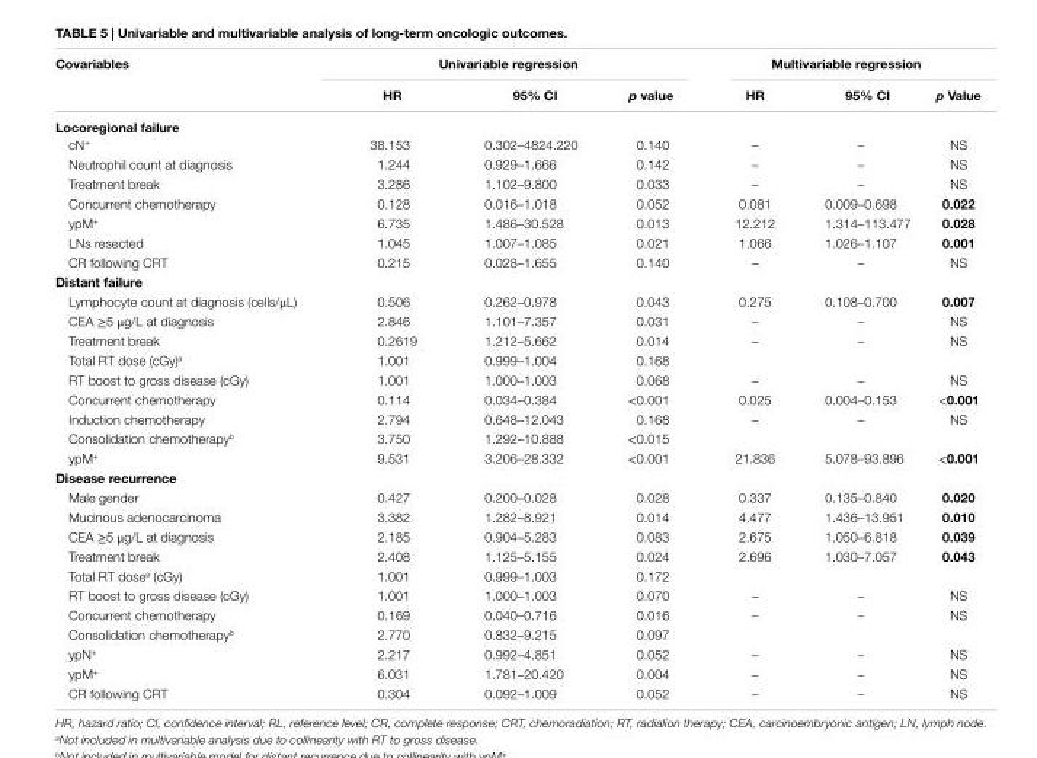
<table><thead><tr><td rowspan="2">covariables</td><td colspan="3">Univariable regression</td><td colspan="3">Multivariable regression</td></tr><tr><td>hr</td><td>95% ci</td><td>p value</td><td>hr</td><td>95% ci</td><td>p Value</td></tr></thead><tbody><tr><td colspan="7">locoregional failure</td></tr><tr><td>cN<sup>+</sup></td><td>38.153</td><td>0.302–4824.220</td><td>0.140</td><td>–</td><td>–</td><td>NS</td></tr><tr><td>Neutrophil count at diagnosis</td><td>1.244</td><td>0.929–1.666</td><td>0.142</td><td>–</td><td>–</td><td>NS</td></tr><tr><td>Treatment break</td><td>3.286</td><td>1.102–9.800</td><td>0.033</td><td>–</td><td>–</td><td>NS</td></tr><tr><td>Concurrent chemotherapy</td><td>0.128</td><td>0.016–1.018</td><td>0.052</td><td>0.081</td><td>0.009–0.698</td><td>0.022</td></tr><tr><td>ypM<sup>+</sup></td><td>6.735</td><td>1.486–30.528</td><td>0.013</td><td>12.212</td><td>1.314–113.477</td><td>0.028</td></tr><tr><td>LNs resected</td><td>1.045</td><td>1.007–1.085</td><td>0.021</td><td>1.066</td><td>1.026–1.107</td><td>0.001</td></tr><tr><td>CR following CRT</td><td>0.215</td><td>0.028–1.655</td><td>0.140</td><td>–</td><td>–</td><td>NS</td></tr><tr><td colspan="7">Distant failure</td></tr><tr><td>Lymphocyte count at diagnosis (cells/μL)</td><td>0.506</td><td>0.262–0.978</td><td>0.043</td><td>0.275</td><td>0.108–0.700</td><td>0.007</td></tr><tr><td>CEA ≥5 μg/L at diagnosis</td><td>2.846</td><td>1.101–7.357</td><td>0.031</td><td>–</td><td>–</td><td>NS</td></tr><tr><td>Treatment break</td><td>0.2619</td><td>1.212–5.662</td><td>0.014</td><td>–</td><td>–</td><td>NS</td></tr><tr><td>Total RT dose (cGy)<sup>a</sup></td><td>1.001</td><td>0.999–1.004</td><td>0.168</td><td></td><td></td><td></td></tr><tr><td>RT boost to gross disease (cGy)</td><td>1.001</td><td>1.000–1.003</td><td>0.068</td><td>–</td><td>–</td><td>NS</td></tr><tr><td>Concurrent chemotherapy</td><td>0.114</td><td>0.034–0.384</td><td>&lt;0.001</td><td>0.025</td><td>0.004–0.153</td><td>&lt;0.001</td></tr><tr><td>Induction chemotherapy</td><td>2.794</td><td>0.648–12.043</td><td>0.168</td><td>–</td><td>–</td><td>NS</td></tr><tr><td>Consolidation chemotherapy<sup>b</sup></td><td>3.750</td><td>1.292–10.888</td><td>&lt;0.015</td><td></td><td></td><td></td></tr><tr><td>ypM<sup>+</sup></td><td>9.531</td><td>3.206–28.332</td><td>&lt;0.001</td><td>21.836</td><td>5.078–93.896</td><td>&lt;0.001</td></tr><tr><td colspan="7">Disease recurrence</td></tr><tr><td>Male gender</td><td>0.427</td><td>0.200–0.028</td><td>0.028</td><td>0.337</td><td>0.135–0.840</td><td>0.020</td></tr><tr><td>Mucinous adenocarcinoma</td><td>3.382</td><td>1.282–8.921</td><td>0.014</td><td>4.477</td><td>1.436–13.951</td><td>0.010</td></tr><tr><td>CEA ≥5 μg/L at diagnosis</td><td>2.185</td><td>0.904–5.283</td><td>0.083</td><td>2.675</td><td>1.050–6.818</td><td>0.039</td></tr><tr><td>Treatment break</td><td>2.408</td><td>1.125–5.155</td><td>0.024</td><td>2.696</td><td>1.030–7.057</td><td>0.043</td></tr><tr><td>Total RT dose<sup>a</sup> (cGy)</td><td>1.001</td><td>0.999–1.003</td><td>0.172</td><td></td><td></td><td></td></tr><tr><td>RT boost to gross disease (cGy)</td><td>1.001</td><td>1.000–1.003</td><td>0.070</td><td>–</td><td>–</td><td>NS</td></tr><tr><td>Concurrent chemotherapy</td><td>0.169</td><td>0.040–0.716</td><td>0.016</td><td>–</td><td>–</td><td>NS</td></tr><tr><td>Consolidation chemotherapy<sup>b</sup></td><td>2.770</td><td>0.832–9.215</td><td>0.097</td><td></td><td></td><td></td></tr><tr><td>ypN<sup>+</sup></td><td>2.217</td><td>0.992–4.851</td><td>0.052</td><td>–</td><td>–</td><td>NS</td></tr><tr><td>ypM<sup>+</sup></td><td>6.031</td><td>1.781–20.420</td><td>0.004</td><td>–</td><td>–</td><td>NS</td></tr><tr><td>CR following CRT</td><td>0.304</td><td>0.092–1.009</td><td>0.052</td><td>–</td><td>–</td><td>NS</td></tr></tbody></table>